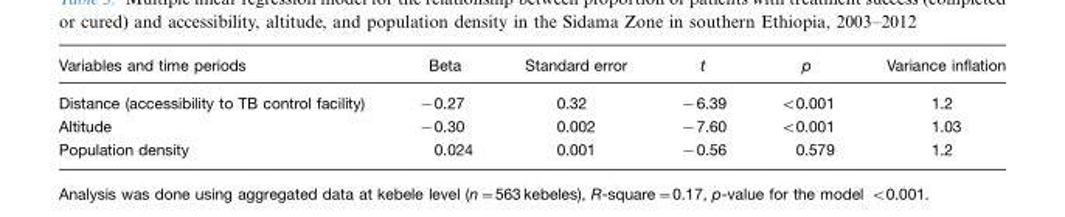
<table><thead><tr><td>Variables and time periods</td><td>Beta</td><td>Standard error</td><td>t</td><td>p</td><td>Variance inflation</td></tr></thead><tbody><tr><td>Distance (accessibility to TB control facility)</td><td>−0.27</td><td>0.32</td><td>−6.39</td><td>&lt;0.001</td><td>1.2</td></tr><tr><td>Altitude</td><td>−0.30</td><td>0.002</td><td>−7.60</td><td>&lt;0.001</td><td>1.03</td></tr><tr><td>Population density</td><td>0.024</td><td>0.001</td><td>−0.56</td><td>0.579</td><td>1.2</td></tr></tbody></table>